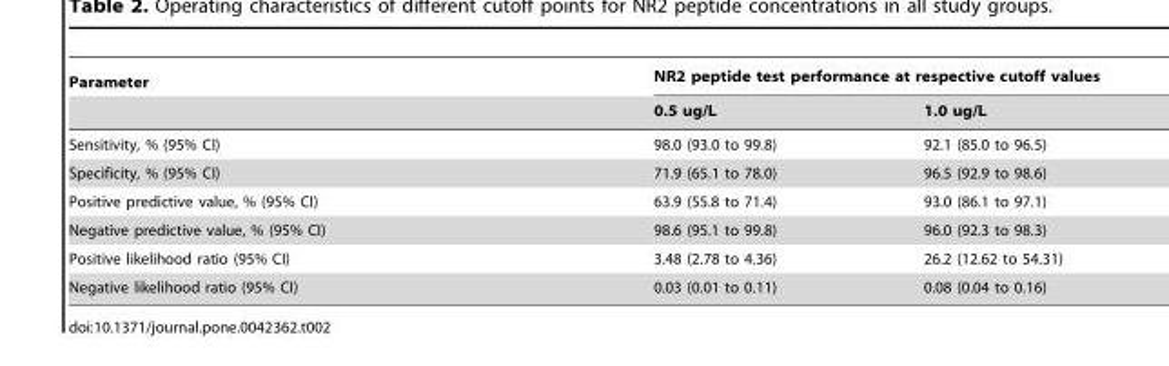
<table><thead><tr><td rowspan="2">Parameter</td><td colspan="2">NR2 peptide test performance at respective cutoff values</td></tr><tr><td>0.5 ug/L</td><td>1.0 ug/L</td></tr></thead><tbody><tr><td>Sensitivity, % (95% CI)</td><td>98.0 (93.0 to 99.8)</td><td>92.1 (85.0 to 96.5)</td></tr><tr><td>Specificity, % (95% CI)</td><td>71.9 (65.1 to 78.0)</td><td>96.5 (92.9 to 98.6)</td></tr><tr><td>Positive predictive value, % (95% CI)</td><td>63.9 (55.8 to 71.4)</td><td>93.0 (86.1 to 97.1)</td></tr><tr><td>Negative predictive value, % (95% CI)</td><td>98.6 (95.1 to 99.8)</td><td>96.0 (92.3 to 98.3)</td></tr><tr><td>Positive likelihood ratio (95% CI)</td><td>3.48 (2.78 to 4.36)</td><td>26.2 (12.62 to 54.31)</td></tr><tr><td>Negative likelihood ratio (95% CI)</td><td>0.03 (0.01 to 0.11)</td><td>0.08 (0.04 to 0.16)</td></tr></tbody></table>